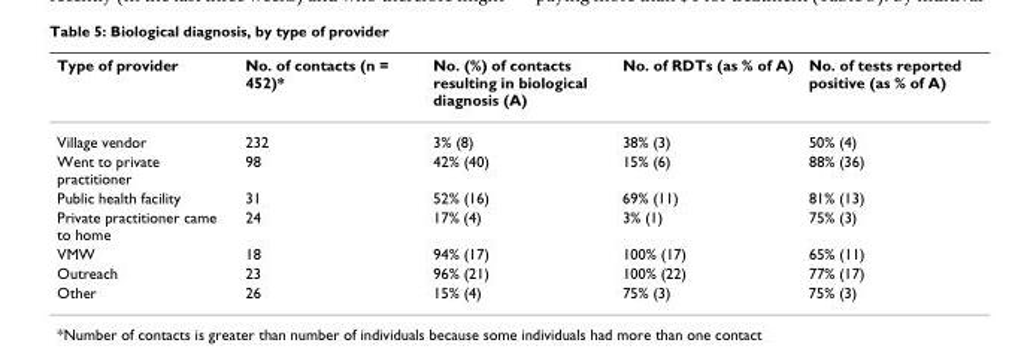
<table><thead><tr><td>Type of provider</td><td>No. of contacts (n = 452)*</td><td>No. (%) of contacts resulting in biological diagnosis (A)</td><td>No. of RDTs (as % of A)</td><td>No. of tests reported positive (as % of A)</td></tr></thead><tbody><tr><td>Village vendor</td><td>232</td><td>3% (8)</td><td>38% (3)</td><td>50% (4)</td></tr><tr><td>Went to private practitioner</td><td>98</td><td>42% (40)</td><td>15% (6)</td><td>88% (36)</td></tr><tr><td>Public health facility</td><td>31</td><td>52% (16)</td><td>69% (11)</td><td>81% (13)</td></tr><tr><td>Private practitioner came to home</td><td>24</td><td>17% (4)</td><td>3% (1)</td><td>75% (3)</td></tr><tr><td>VMW</td><td>18</td><td>94% (17)</td><td>100% (17)</td><td>65% (11)</td></tr><tr><td>Outreach</td><td>23</td><td>96% (21)</td><td>100% (22)</td><td>77% (17)</td></tr><tr><td>Other</td><td>26</td><td>15% (4)</td><td>75% (3)</td><td>75% (3)</td></tr></tbody></table>